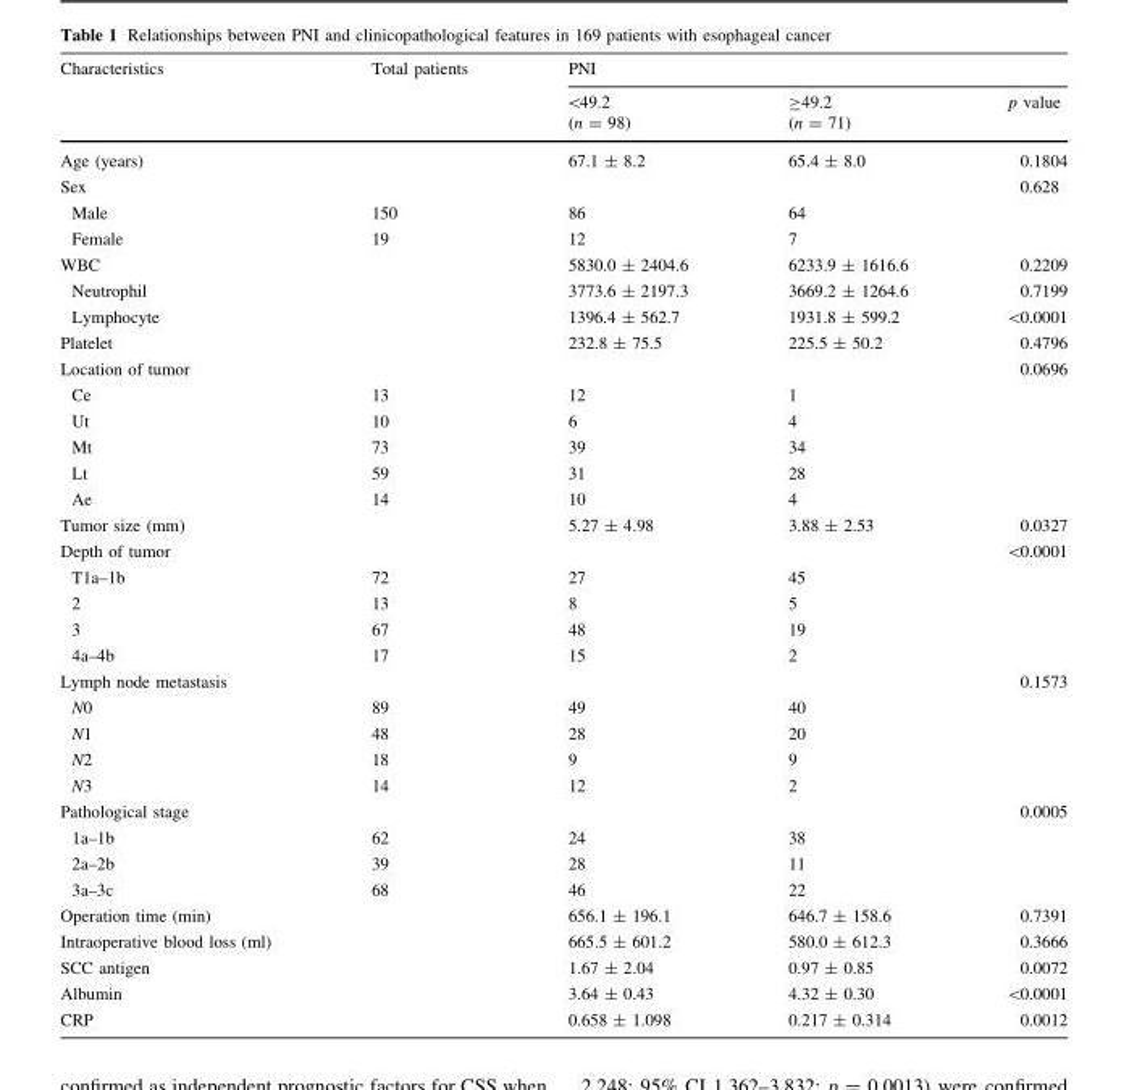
<table><thead><tr><td rowspan="2">Characteristics</td><td rowspan="2">Total patients</td><td colspan="3">PNI</td></tr><tr><td>&lt;49.2 (n = 98)</td><td>≥49.2 (n = 71)</td><td>p value</td></tr></thead><tbody><tr><td>Age (years)</td><td></td><td>67.1 ± 8.2</td><td>65.4 ± 8.0</td><td>0.1804</td></tr><tr><td>Sex</td><td></td><td></td><td></td><td>0.628</td></tr><tr><td>Male</td><td>150</td><td>86</td><td>64</td><td></td></tr><tr><td>Female</td><td>19</td><td>12</td><td>7</td><td></td></tr><tr><td>WBC</td><td></td><td>5830.0 ± 2404.6</td><td>6233.9 ± 1616.6</td><td>0.2209</td></tr><tr><td>Neutrophil</td><td></td><td>3773.6 ± 2197.3</td><td>3669.2 ± 1264.6</td><td>0.7199</td></tr><tr><td>Lymphocyte</td><td></td><td>1396.4 ± 562.7</td><td>1931.8 ± 599.2</td><td>&lt;0.0001</td></tr><tr><td>Platelet</td><td></td><td>232.8 ± 75.5</td><td>225.5 ± 50.2</td><td>0.4796</td></tr><tr><td>Location of tumor</td><td></td><td></td><td></td><td>0.0696</td></tr><tr><td>Ce</td><td>13</td><td>12</td><td>1</td><td></td></tr><tr><td>Ut</td><td>10</td><td>6</td><td>4</td><td></td></tr><tr><td>Mt</td><td>73</td><td>39</td><td>34</td><td></td></tr><tr><td>Lt</td><td>59</td><td>31</td><td>28</td><td></td></tr><tr><td>Ae</td><td>14</td><td>10</td><td>4</td><td></td></tr><tr><td>Tumor size (mm)</td><td></td><td>5.27 ± 4.98</td><td>3.88 ± 2.53</td><td>0.0327</td></tr><tr><td>Depth of tumor</td><td></td><td></td><td></td><td>&lt;0.0001</td></tr><tr><td>T1a–1b</td><td>72</td><td>27</td><td>45</td><td></td></tr><tr><td>2</td><td>13</td><td>8</td><td>5</td><td></td></tr><tr><td>3</td><td>67</td><td>48</td><td>19</td><td></td></tr><tr><td>4a–4b</td><td>17</td><td>15</td><td>2</td><td></td></tr><tr><td>Lymph node metastasis</td><td></td><td></td><td></td><td>0.1573</td></tr><tr><td>N0</td><td>89</td><td>49</td><td>40</td><td></td></tr><tr><td>N1</td><td>48</td><td>28</td><td>20</td><td></td></tr><tr><td>N2</td><td>18</td><td>9</td><td>9</td><td></td></tr><tr><td>N3</td><td>14</td><td>12</td><td>2</td><td></td></tr><tr><td>Pathological stage</td><td></td><td></td><td></td><td>0.0005</td></tr><tr><td>1a–1b</td><td>62</td><td>24</td><td>38</td><td></td></tr><tr><td>2a–2b</td><td>39</td><td>28</td><td>11</td><td></td></tr><tr><td>3a–3c</td><td>68</td><td>46</td><td>22</td><td></td></tr><tr><td>Operation time (min)</td><td></td><td>656.1 ± 196.1</td><td>646.7 ± 158.6</td><td>0.7391</td></tr><tr><td>Intraoperative blood loss (ml)</td><td></td><td>665.5 ± 601.2</td><td>580.0 ± 612.3</td><td>0.3666</td></tr><tr><td>SCC antigen</td><td></td><td>1.67 ± 2.04</td><td>0.97 ± 0.85</td><td>0.0072</td></tr><tr><td>Albumin</td><td></td><td>3.64 ± 0.43</td><td>4.32 ± 0.30</td><td>&lt;0.0001</td></tr><tr><td>CRP</td><td></td><td>0.658 ± 1.098</td><td>0.217 ± 0.314</td><td>0.0012</td></tr></tbody></table>